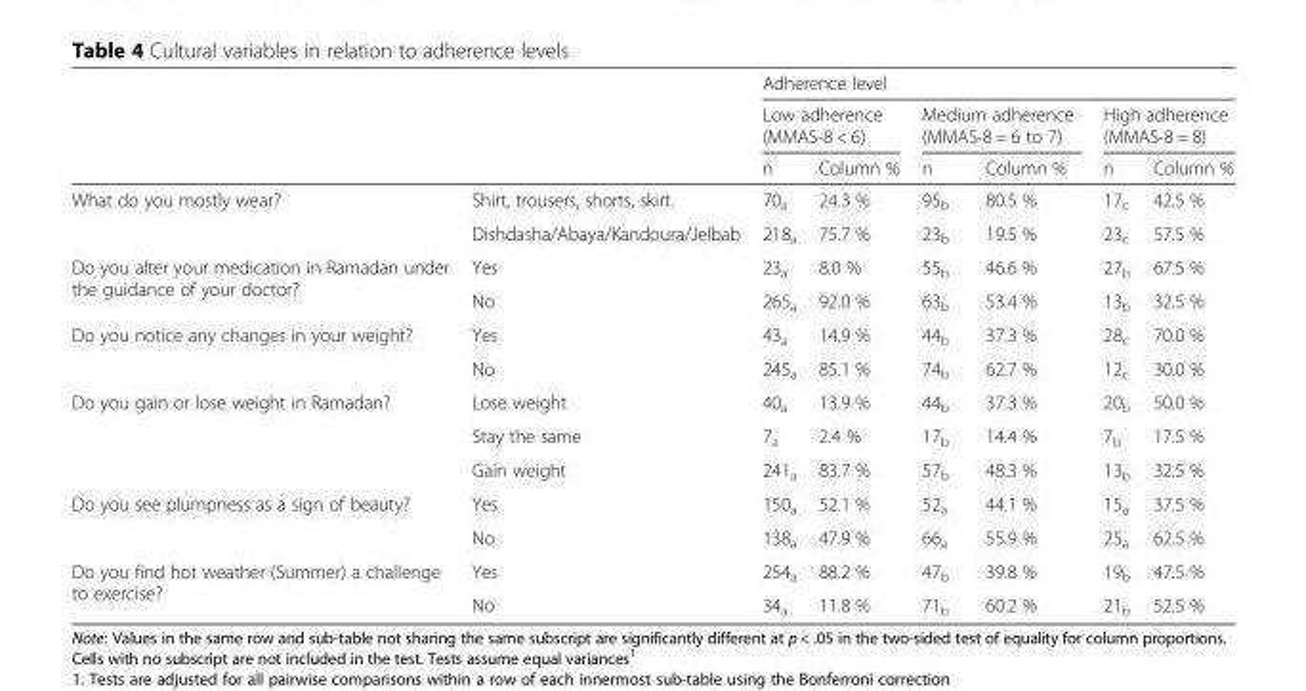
<table><thead><tr><td rowspan="3"></td><td rowspan="3"></td><td colspan="6">Adherence level</td></tr><tr><td colspan="2">Low adherence (MMAS-8 &lt; 6)</td><td colspan="2">Medium adherence (MMAS-8 = 6 to 7)</td><td colspan="2">High adherence (MMAS-8 = 8)</td></tr><tr><td>n</td><td>Column %</td><td>n</td><td>Column %</td><td>n</td><td>Column %</td></tr></thead><tbody><tr><td rowspan="2">What do you mostly wear?</td><td>Shirt, trousers, shorts, skirt.</td><td>70<sub>a</sub></td><td>24.3 %</td><td>95<sub>b</sub></td><td>80.5 %</td><td>17<sub>c</sub></td><td>42.5 %</td></tr><tr><td>Dishdasha/Abaya/Kandoura/Jelbab</td><td>218<sub>a</sub></td><td>75.7 %</td><td>23<sub>b</sub></td><td>19.5 %</td><td>23<sub>c</sub></td><td>57.5 %</td></tr><tr><td rowspan="2">Do you alter your medication in Ramadan under the guidance of your doctor?</td><td>Yes</td><td>23<sub>a</sub></td><td>8.0 %</td><td>55<sub>b</sub></td><td>46.6 %</td><td>27<sub>b</sub></td><td>67.5 %</td></tr><tr><td>No</td><td>265<sub>a</sub></td><td>92.0 %</td><td>63<sub>b</sub></td><td>53.4 %</td><td>13<sub>b</sub></td><td>32.5 %</td></tr><tr><td rowspan="2">Do you notice any changes in your weight?</td><td>Yes</td><td>43<sub>a</sub></td><td>14.9 %</td><td>44<sub>b</sub></td><td>37.3 %</td><td>28<sub>c</sub></td><td>70.0 %</td></tr><tr><td>No</td><td>245<sub>a</sub></td><td>85.1 %</td><td>74<sub>b</sub></td><td>62.7 %</td><td>12<sub>c</sub></td><td>30.0 %</td></tr><tr><td rowspan="3">Do you gain or lose weight in Ramadan?</td><td>Lose weight</td><td>40<sub>a</sub></td><td>13.9 %</td><td>44<sub>b</sub></td><td>37.3 %</td><td>20<sub>b</sub></td><td>50.0 %</td></tr><tr><td>Stay the same</td><td>7<sub>a</sub></td><td>2.4 %</td><td>17<sub>b</sub></td><td>14.4 %</td><td>7<sub>b</sub></td><td>17.5 %</td></tr><tr><td>Gain weight</td><td>241<sub>a</sub></td><td>83.7 %</td><td>57<sub>b</sub></td><td>48.3 %</td><td>13<sub>b</sub></td><td>32.5 %</td></tr><tr><td rowspan="2">Do you see plumpness as a sign of beauty?</td><td>Yes</td><td>150<sub>a</sub></td><td>52.1 %</td><td>52<sub>a</sub></td><td>44.1 %</td><td>15<sub>a</sub></td><td>37.5 %</td></tr><tr><td>No</td><td>138<sub>a</sub></td><td>47.9 %</td><td>66<sub>a</sub></td><td>55.9 %</td><td>25<sub>a</sub></td><td>62.5 %</td></tr><tr><td rowspan="2">Do you find hot weather (Summer) a challenge to exercise?</td><td>Yes</td><td>254<sub>a</sub></td><td>88.2 %</td><td>47<sub>b</sub></td><td>39.8 %</td><td>19<sub>b</sub></td><td>47.5 %</td></tr><tr><td>No</td><td>34<sub>a</sub></td><td>11.8 %</td><td>71<sub>b</sub></td><td>60.2 %</td><td>21<sub>b</sub></td><td>52.5 %</td></tr></tbody></table>